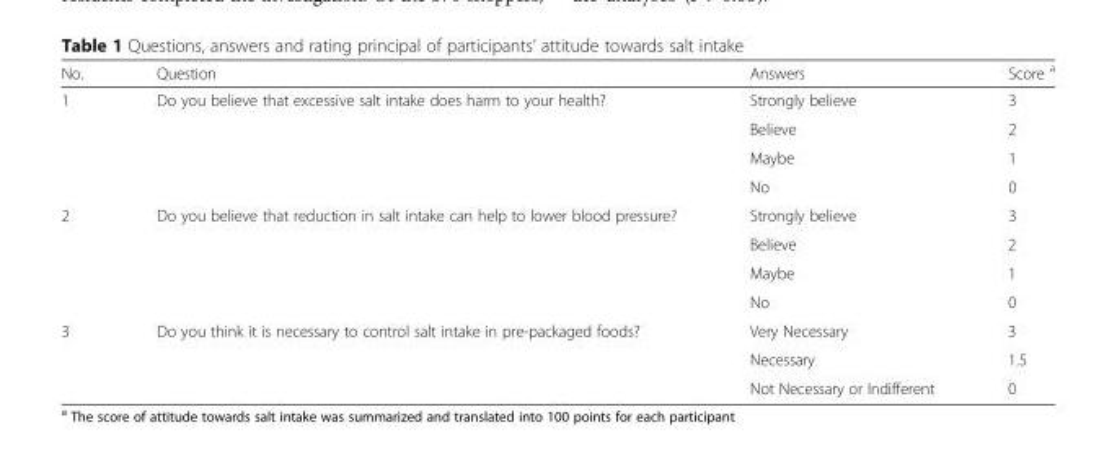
<table><thead><tr><td>No.</td><td>Question</td><td>Answers</td><td>Score <sup>a</sup></td></tr></thead><tbody><tr><td rowspan="4">1</td><td rowspan="4">Do you believe that excessive salt intake does harm to your health?</td><td>Strongly believe</td><td>3</td></tr><tr><td>Believe</td><td>2</td></tr><tr><td>Maybe</td><td>1</td></tr><tr><td>No</td><td>0</td></tr><tr><td rowspan="4">2</td><td rowspan="4">Do you believe that reduction in salt intake can help to lower blood pressure?</td><td>Strongly believe</td><td>3</td></tr><tr><td>Believe</td><td>2</td></tr><tr><td>Maybe</td><td>1</td></tr><tr><td>No</td><td>0</td></tr><tr><td rowspan="3">3</td><td rowspan="2">Do you think it is necessary to control salt intake in pre-packaged foods?</td><td>Very Necessary</td><td>3</td></tr><tr><td>Necessary</td><td>1.5</td></tr><tr><td></td><td>Not Necessary or Indifferent</td><td>0</td></tr></tbody></table>